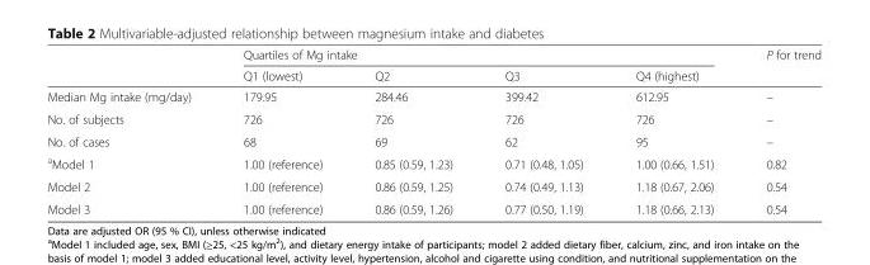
<table><thead><tr><td rowspan="2"></td><td colspan="4">Quartiles of Mg intake</td><td rowspan="2">P for trend</td></tr><tr><td>Q1 (lowest)</td><td>Q2</td><td>Q3</td><td>Q4 (highest)</td></tr></thead><tbody><tr><td>Median Mg intake (mg/day)</td><td>179.95</td><td>284.46</td><td>399.42</td><td>612.95</td><td>–</td></tr><tr><td>No. of subjects</td><td>726</td><td>726</td><td>726</td><td>726</td><td>–</td></tr><tr><td>No. of cases</td><td>68</td><td>69</td><td>62</td><td>95</td><td>–</td></tr><tr><td><sup>a</sup>Model 1</td><td>1.00 (reference)</td><td>0.85 (0.59, 1.23)</td><td>0.71 (0.48, 1.05)</td><td>1.00 (0.66, 1.51)</td><td>0.82</td></tr><tr><td>Model 2</td><td>1.00 (reference)</td><td>0.86 (0.59, 1.25)</td><td>0.74 (0.49, 1.13)</td><td>1.18 (0.67, 2.06)</td><td>0.54</td></tr><tr><td>Model 3</td><td>1.00 (reference)</td><td>0.86 (0.59, 1.26)</td><td>0.77 (0.50, 1.19)</td><td>1.18 (0.66, 2.13)</td><td>0.54</td></tr></tbody></table>